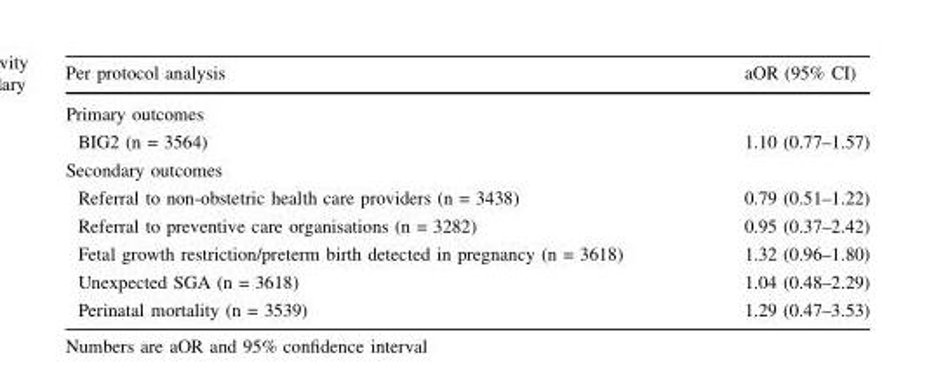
<table><thead><tr><td>Per protocol analysis</td><td>aOR (95% CI)</td></tr></thead><tbody><tr><td colspan="2">Primary outcomes</td></tr><tr><td>BIG2 (n = 3564)</td><td>1.10 (0.77–1.57)</td></tr><tr><td colspan="2">Secondary outcomes</td></tr><tr><td>Referral to non-obstetric health care providers (n = 3438)</td><td>0.79 (0.51–1.22)</td></tr><tr><td>Referral to preventive care organisations (n = 3282)</td><td>0.95 (0.37–2.42)</td></tr><tr><td>Fetal growth restriction/preterm birth detected in pregnancy (n = 3618)</td><td>1.32 (0.96–1.80)</td></tr><tr><td>Unexpected SGA (n = 3618)</td><td>1.04 (0.48–2.29)</td></tr><tr><td>Perinatal mortality (n = 3539)</td><td>1.29 (0.47–3.53)</td></tr></tbody></table>